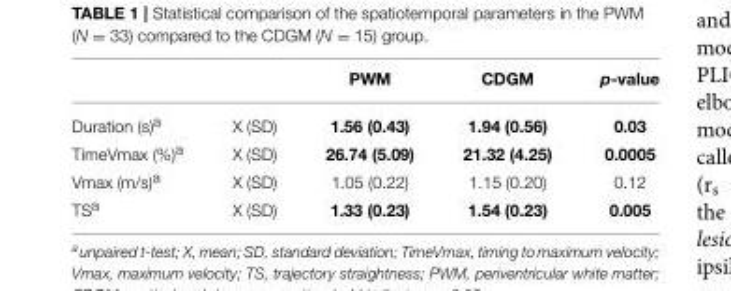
<table><thead><tr><td></td><td></td><td>PWM</td><td>CDGM</td><td>p-value</td></tr></thead><tbody><tr><td>Duration (s)<sup>a</sup></td><td>X (SD)</td><td>1.56 (0.43)</td><td>1.94 (0.56)</td><td>0.03</td></tr><tr><td>TimeVmax (%)<sup>a</sup></td><td>X (SD)</td><td>26.74 (5.09)</td><td>21.32 (4.25)</td><td>0.0005</td></tr><tr><td>Vmax (m/s)<sup>a</sup></td><td>X (SD)</td><td>1.05 (0.22)</td><td>1.15 (0.20)</td><td>0.12</td></tr><tr><td>TS<sup>a</sup></td><td>X (SD)</td><td>1.33 (0.23)</td><td>1.54 (0.23)</td><td>0.005</td></tr></tbody></table>